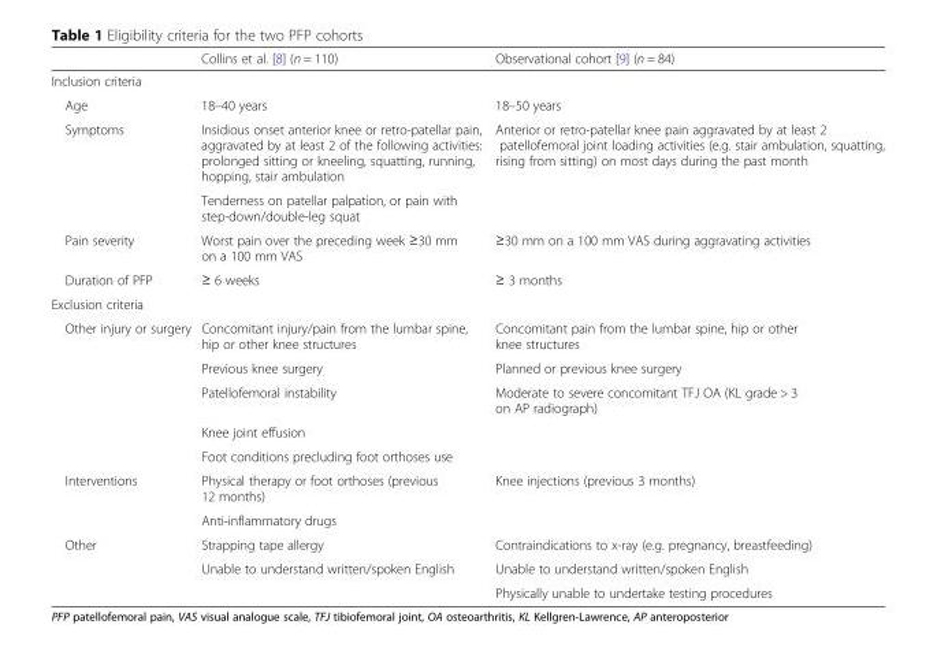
<table><thead><tr><td></td><td>Collins et al. [8] (n = 110)</td><td>Observational cohort [9] (n = 84)</td></tr></thead><tbody><tr><td colspan="3">Inclusion criteria</td></tr><tr><td>Age</td><td>18–40 years</td><td>18–50 years</td></tr><tr><td rowspan="2">Symptoms</td><td>Insidious onset anterior knee or retro-patellar pain, aggravated by at least 2 of the following activities: prolonged sitting or kneeling, squatting, running, hopping, stair ambulation</td><td>Anterior or retro-patellar knee pain aggravated by at least 2 patellofemoral joint loading activities (e.g. stair ambulation, squatting, rising from sitting) on most days during the past month</td></tr><tr><td>Tenderness on patellar palpation, or pain with step-down/double-leg squat</td><td></td></tr><tr><td>Pain severity</td><td>Worst pain over the preceding week ≥30 mm on a 100 mm VAS</td><td>≥30 mm on a 100 mm VAS during aggravating activities</td></tr><tr><td>Duration of PFP</td><td>≥ 6 weeks</td><td>≥ 3 months</td></tr><tr><td colspan="3">Exclusion criteria</td></tr><tr><td rowspan="5">Other injury or surgery</td><td>Concomitant injury/pain from the lumbar spine, hip or other knee structures</td><td>Concomitant pain from the lumbar spine, hip or other knee structures</td></tr><tr><td>Previous knee surgery</td><td>Planned or previous knee surgery</td></tr><tr><td>Patellofemoral instability</td><td>Moderate to severe concomitant TFJ OA (KL grade &gt; 3 on AP radiograph)</td></tr><tr><td>Knee joint effusion</td><td></td></tr><tr><td>Foot conditions precluding foot orthoses use</td><td></td></tr><tr><td rowspan="2">Interventions</td><td>Physical therapy or foot orthoses (previous 12 months)</td><td>Knee injections (previous 3 months)</td></tr><tr><td>Anti-inflammatory drugs</td><td></td></tr><tr><td rowspan="3">Other</td><td>Strapping tape allergy</td><td>Contraindications to x-ray (e.g. pregnancy, breastfeeding)</td></tr><tr><td>Unable to understand written/spoken English</td><td>Unable to understand written/spoken English</td></tr><tr><td></td><td>Physically unable to undertake testing procedures</td></tr></tbody></table>